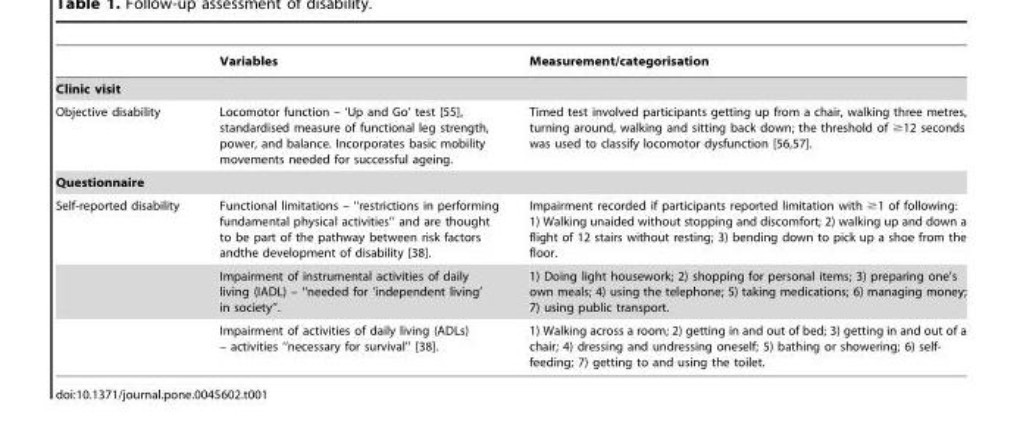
<table><thead><tr><td></td><td>Variables</td><td>Measurement/categorisation</td></tr></thead><tbody><tr><td colspan="3">Clinic visit</td></tr><tr><td>Objective disability</td><td>Locomotor function – ‘Up and Go’ test [55], standardised measure of functional leg strength, power, and balance. Incorporates basic mobility movements needed for successful ageing.</td><td>Timed test involved participants getting up from a chair, walking three metres, turning around, walking and sitting back down; the threshold of $12 seconds was used to classify locomotor dysfunction [56,57].</td></tr><tr><td colspan="3">Questionnaire</td></tr><tr><td rowspan="3">Self-reported disability</td><td>Functional limitations – ‘‘restrictions in performing fundamental physical activities’’ and are thought to be part of the pathway between risk factors andthe development of disability [38].</td><td>Impairment recorded if participants reported limitation with ≥1 of following: 1) Walking unaided without stopping and discomfort; 2) walking up and down a flight of 12 stairs without resting; 3) bending down to pick up a shoe from the floor.</td></tr><tr><td>Impairment of instrumental activities of daily living (IADL) – ‘‘needed for ‘independent living’ in society’’.</td><td>1) Doing light housework; 2) shopping for personal items; 3) preparing one’s own meals; 4) using the telephone; 5) taking medications; 6) managing money; 7) using public transport.</td></tr><tr><td>Impairment of activities of daily living (ADLs) – activities ‘‘necessary for survival’’ [38].</td><td>1) Walking across a room; 2) getting in and out of bed; 3) getting in and out of a chair; 4) dressing and undressing oneself; 5) bathing or showering; 6) self- feeding; 7) getting to and using the toilet.</td></tr></tbody></table>